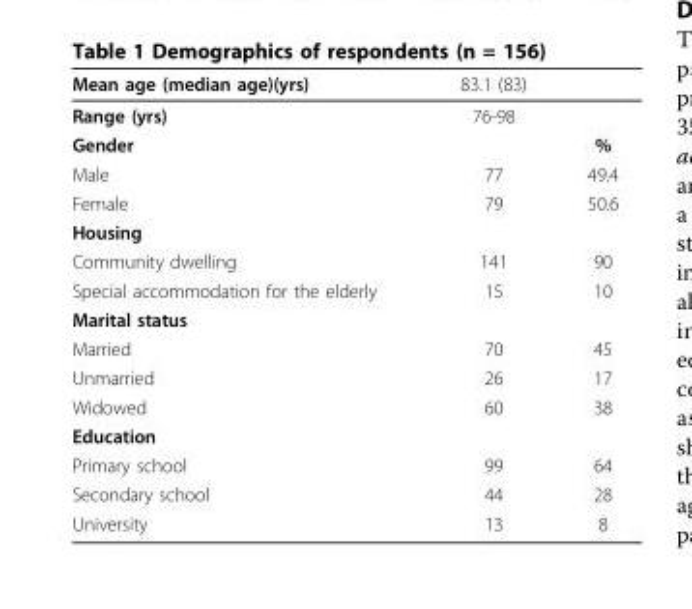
<table><thead><tr><td>Mean age (median age)(yrs)</td><td>83.1 (83)</td><td></td></tr></thead><tbody><tr><td>Range (yrs)</td><td>76-98</td><td></td></tr><tr><td>Gender</td><td></td><td>%</td></tr><tr><td>Male</td><td>77</td><td>49.4</td></tr><tr><td>Female</td><td>79</td><td>50.6</td></tr><tr><td colspan="3">Housing</td></tr><tr><td>Community dwelling</td><td>141</td><td>90</td></tr><tr><td>Special accommodation for the elderly</td><td>15</td><td>10</td></tr><tr><td colspan="3">Marital status</td></tr><tr><td>Married</td><td>70</td><td>45</td></tr><tr><td>Unmarried</td><td>26</td><td>17</td></tr><tr><td>Widowed</td><td>60</td><td>38</td></tr><tr><td colspan="3">Education</td></tr><tr><td>Primary school</td><td>99</td><td>64</td></tr><tr><td>Secondary school</td><td>44</td><td>28</td></tr><tr><td>University</td><td>13</td><td>8</td></tr></tbody></table>